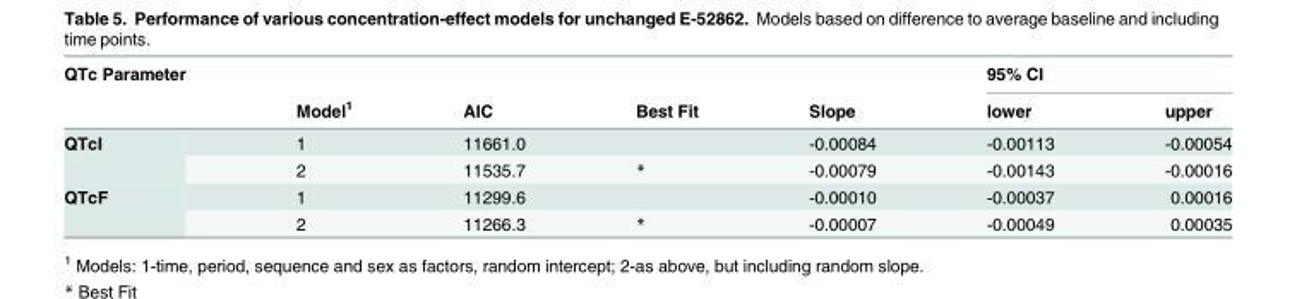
<table><thead><tr><td rowspan="2">QTc Parameter</td><td rowspan="2">Model<sup>1</sup></td><td rowspan="2">AIC</td><td rowspan="2">Best Fit</td><td rowspan="2">Slope</td><td colspan="2">95% CI</td></tr><tr><td>lower</td><td>upper</td></tr></thead><tbody><tr><td rowspan="2">QTcI</td><td>1</td><td>11661.0</td><td></td><td>-0.00084</td><td>-0.00113</td><td>-0.00054</td></tr><tr><td>2</td><td>11535.7</td><td>*</td><td>-0.00079</td><td>-0.00143</td><td>-0.00016</td></tr><tr><td rowspan="2">QTcF</td><td>1</td><td>11299.6</td><td></td><td>-0.00010</td><td>-0.00037</td><td>0.00016</td></tr><tr><td>2</td><td>11266.3</td><td>*</td><td>-0.00007</td><td>-0.00049</td><td>0.00035</td></tr></tbody></table>